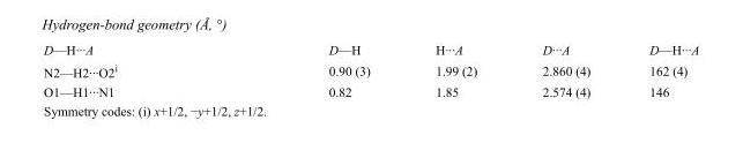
<table><tbody><tr><td>D—H···A</td><td>D—H</td><td>H···A</td><td>D···A</td><td>D—H···A</td></tr><tr><td>N2—H2···O2<sup>i</sup></td><td>0.90 (3)</td><td>1.99 (2)</td><td>2.860 (4)</td><td>162 (4)</td></tr><tr><td>O1—H1···N1</td><td>0.82</td><td>1.85</td><td>2.574 (4)</td><td>146</td></tr></tbody></table>